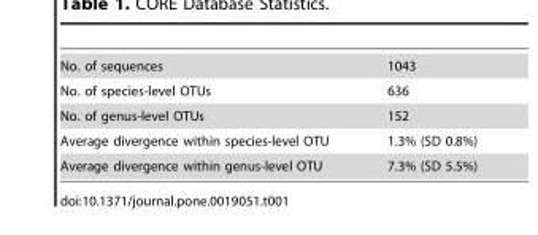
<table><tbody><tr><td>No. of sequences</td><td>1043</td></tr><tr><td>No. of species-level OTUs</td><td>636</td></tr><tr><td>No. of genus-level OTUs</td><td>152</td></tr><tr><td>Average divergence within species-level OTU</td><td>1.3% (SD 0.8%)</td></tr><tr><td>Average divergence within genus-level OTU</td><td>7.3% (SD 5.5%)</td></tr></tbody></table>